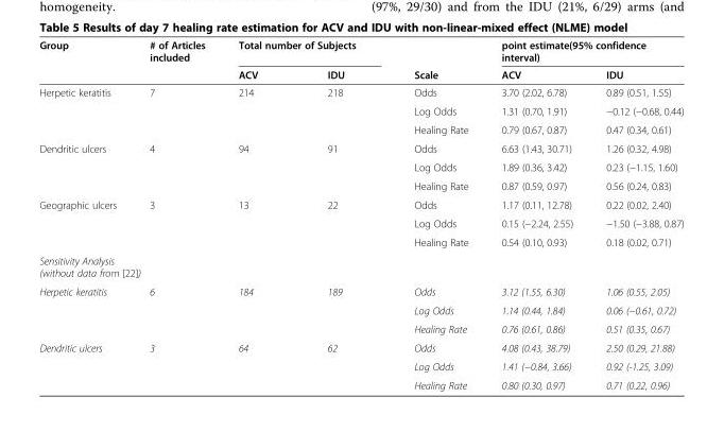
<table><thead><tr><td rowspan="2">Group</td><td rowspan="2"># of Articles included</td><td colspan="2">Total number of Subjects</td><td rowspan="2">Scale</td><td colspan="2">point estimate(95% confidence interval)</td></tr><tr><td>ACV</td><td>IDU</td><td>ACV</td><td>IDU</td></tr></thead><tbody><tr><td rowspan="3">Herpetic keratitis</td><td rowspan="3">7</td><td rowspan="3">214</td><td rowspan="3">218</td><td>Odds</td><td>3.70 (2.02, 6.78)</td><td>0.89 (0.51, 1.55)</td></tr><tr><td>Log Odds</td><td>1.31 (0.70, 1.91)</td><td>−0.12 (−0.68, 0.44)</td></tr><tr><td>Healing Rate</td><td>0.79 (0.67, 0.87)</td><td>0.47 (0.34, 0.61)</td></tr><tr><td rowspan="3">Dendritic ulcers</td><td rowspan="3">4</td><td rowspan="3">94</td><td rowspan="3">91</td><td>Odds</td><td>6.63 (1.43, 30.71)</td><td>1.26 (0.32, 4.98)</td></tr><tr><td>Log Odds</td><td>1.89 (0.36, 3.42)</td><td>0.23 (−1.15, 1.60)</td></tr><tr><td>Healing Rate</td><td>0.87 (0.59, 0.97)</td><td>0.56 (0.24, 0.83)</td></tr><tr><td rowspan="3">Geographic ulcers</td><td rowspan="3">3</td><td rowspan="3">13</td><td rowspan="3">22</td><td>Odds</td><td>1.17 (0.11, 12.78)</td><td>0.22 (0.02, 2.40)</td></tr><tr><td>Log Odds</td><td>0.15 (−2.24, 2.55)</td><td>−1.50 (−3.88, 0.87)</td></tr><tr><td>Healing Rate</td><td>0.54 (0.10, 0.93)</td><td>0.18 (0.02, 0.71)</td></tr><tr><td colspan="7">Sensitivity Analysis (without data from [22])</td></tr><tr><td rowspan="3">Herpetic keratitis</td><td rowspan="3">6</td><td rowspan="3">184</td><td rowspan="3">189</td><td>Odds</td><td>3.12 (1.55, 6.30)</td><td>1.06 (0.55, 2.05)</td></tr><tr><td>Log Odds</td><td>1.14 (0.44, 1.84)</td><td>0.06 (−0.61, 0.72)</td></tr><tr><td>Healing Rate</td><td>0.76 (0.61, 0.86)</td><td>0.51 (0.35, 0.67)</td></tr><tr><td rowspan="3">Dendritic ulcers</td><td rowspan="3">3</td><td rowspan="3">64</td><td rowspan="3">62</td><td>Odds</td><td>4.08 (0.43, 38.79)</td><td>2.50 (0.29, 21.88)</td></tr><tr><td>Log Odds</td><td>1.41 (−0.84, 3.66)</td><td>0.92 (-1.25, 3.09)</td></tr><tr><td>Healing Rate</td><td>0.80 (0.30, 0.97)</td><td>0.71 (0.22, 0.96)</td></tr></tbody></table>